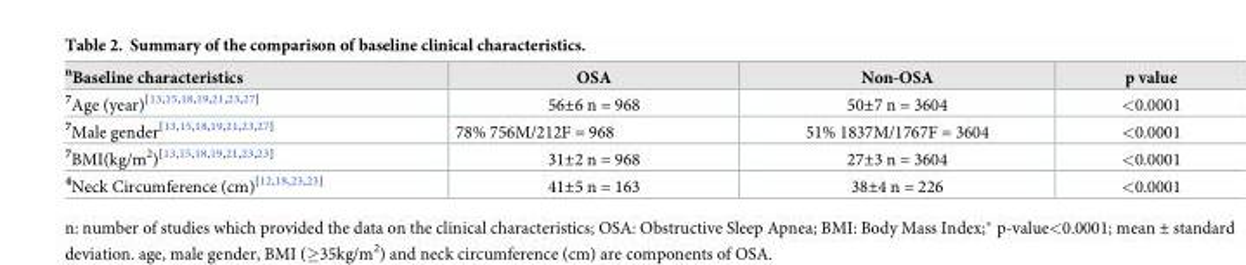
<table><thead><tr><td><sup>n</sup>Baseline characteristics</td><td>OSA</td><td>Non-OSA</td><td>p value</td></tr></thead><tbody><tr><td><sup>7</sup>Age (year)<sup>[13,15,18,19,21,23,27]</sup></td><td>56±6 n = 968</td><td>50±7 n = 3604</td><td>&lt;0.0001</td></tr><tr><td><sup>7</sup>Male gender<sup>[13,15,18,19,21,23,27]</sup></td><td>78% 756M/212F = 968</td><td>51% 1837M/1767F = 3604</td><td>&lt;0.0001</td></tr><tr><td><sup>7</sup>BMI(kg/m<sup>2</sup>)<sup>[13,15,18,19,21,23,23]</sup></td><td>31±2 n = 968</td><td>27±3 n = 3604</td><td>&lt;0.0001</td></tr><tr><td><sup>4</sup>Neck Circumference (cm)<sup>[12,18,23,23]</sup></td><td>41±5 n = 163</td><td>38±4 n = 226</td><td>&lt;0.0001</td></tr></tbody></table>